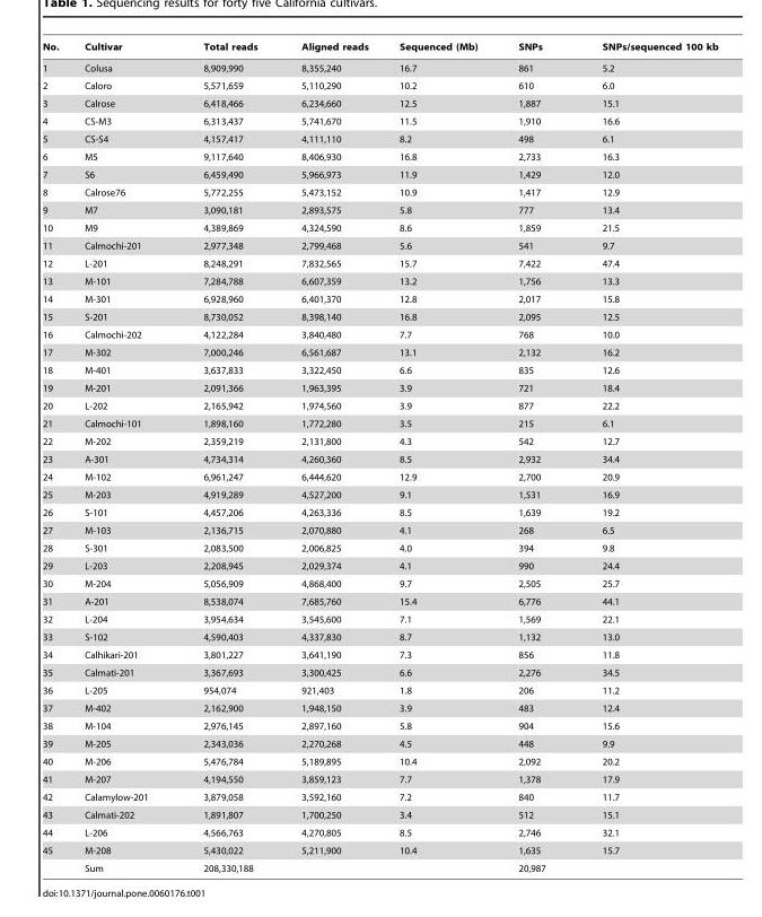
<table><thead><tr><td>No.</td><td>Cultivar</td><td>Total reads</td><td>Aligned reads</td><td>Sequenced (Mb)</td><td>SNPs</td><td>SNPs/sequenced 100 kb</td></tr></thead><tbody><tr><td>1</td><td>Colusa</td><td>8,909,990</td><td>8,355,240</td><td>16.7</td><td>861</td><td>5.2</td></tr><tr><td>2</td><td>Caloro</td><td>5,571,659</td><td>5,110,290</td><td>10.2</td><td>610</td><td>6.0</td></tr><tr><td>3</td><td>Calrose</td><td>6,418,466</td><td>6,234,660</td><td>12.5</td><td>1,887</td><td>15.1</td></tr><tr><td>4</td><td>CS-M3</td><td>6,313,437</td><td>5,741,670</td><td>11.5</td><td>1,910</td><td>16.6</td></tr><tr><td>5</td><td>CS-S4</td><td>4,157,417</td><td>4,111,110</td><td>8.2</td><td>498</td><td>6.1</td></tr><tr><td>6</td><td>M5</td><td>9,117,640</td><td>8,406,930</td><td>16.8</td><td>2,733</td><td>16.3</td></tr><tr><td>7</td><td>S6</td><td>6,459,490</td><td>5,966,973</td><td>11.9</td><td>1,429</td><td>12.0</td></tr><tr><td>8</td><td>Calrose76</td><td>5,772,255</td><td>5,473,152</td><td>10.9</td><td>1,417</td><td>12.9</td></tr><tr><td>9</td><td>M7</td><td>3,090,181</td><td>2,893,575</td><td>5.8</td><td>777</td><td>13.4</td></tr><tr><td>10</td><td>M9</td><td>4,389,869</td><td>4,324,590</td><td>8.6</td><td>1,859</td><td>21.5</td></tr><tr><td>11</td><td>Calmochi-201</td><td>2,977,348</td><td>2,799,468</td><td>5.6</td><td>541</td><td>9.7</td></tr><tr><td>12</td><td>L-201</td><td>8,248,291</td><td>7,832,565</td><td>15.7</td><td>7,422</td><td>47.4</td></tr><tr><td>13</td><td>M-101</td><td>7,284,788</td><td>6,607,359</td><td>13.2</td><td>1,756</td><td>13.3</td></tr><tr><td>14</td><td>M-301</td><td>6,928,960</td><td>6,401,370</td><td>12.8</td><td>2,017</td><td>15.8</td></tr><tr><td>15</td><td>S-201</td><td>8,730,052</td><td>8,398,140</td><td>16.8</td><td>2,095</td><td>12.5</td></tr><tr><td>16</td><td>Calmochi-202</td><td>4,122,284</td><td>3,840,480</td><td>7.7</td><td>768</td><td>10.0</td></tr><tr><td>17</td><td>M-302</td><td>7,000,246</td><td>6,561,687</td><td>13.1</td><td>2,132</td><td>16.2</td></tr><tr><td>18</td><td>M-401</td><td>3,637,833</td><td>3,322,450</td><td>6.6</td><td>835</td><td>12.6</td></tr><tr><td>19</td><td>M-201</td><td>2,091,366</td><td>1,963,395</td><td>3.9</td><td>721</td><td>18.4</td></tr><tr><td>20</td><td>L-202</td><td>2,165,942</td><td>1,974,560</td><td>3.9</td><td>877</td><td>22.2</td></tr><tr><td>21</td><td>Calmochi-101</td><td>1,898,160</td><td>1,772,280</td><td>3.5</td><td>215</td><td>6.1</td></tr><tr><td>22</td><td>M-202</td><td>2,359,219</td><td>2,131,800</td><td>4.3</td><td>542</td><td>12.7</td></tr><tr><td>23</td><td>A-301</td><td>4,734,314</td><td>4,260,360</td><td>8.5</td><td>2,932</td><td>34.4</td></tr><tr><td>24</td><td>M-102</td><td>6,961,247</td><td>6,444,620</td><td>12.9</td><td>2,700</td><td>20.9</td></tr><tr><td>25</td><td>M-203</td><td>4,919,289</td><td>4,527,200</td><td>9.1</td><td>1,531</td><td>16.9</td></tr><tr><td>26</td><td>S-101</td><td>4,457,206</td><td>4,263,336</td><td>8.5</td><td>1,639</td><td>19.2</td></tr><tr><td>27</td><td>M-103</td><td>2,136,715</td><td>2,070,880</td><td>4.1</td><td>268</td><td>6.5</td></tr><tr><td>28</td><td>S-301</td><td>2,083,500</td><td>2,006,825</td><td>4.0</td><td>394</td><td>9.8</td></tr><tr><td>29</td><td>L-203</td><td>2,208,945</td><td>2,029,374</td><td>4.1</td><td>990</td><td>24.4</td></tr><tr><td>30</td><td>M-204</td><td>5,056,909</td><td>4,868,400</td><td>9.7</td><td>2,505</td><td>25.7</td></tr><tr><td>31</td><td>A-201</td><td>8,538,074</td><td>7,685,760</td><td>15.4</td><td>6,776</td><td>44.1</td></tr><tr><td>32</td><td>L-204</td><td>3,954,634</td><td>3,545,600</td><td>7.1</td><td>1,569</td><td>22.1</td></tr><tr><td>33</td><td>S-102</td><td>4,590,403</td><td>4,337,830</td><td>8.7</td><td>1,132</td><td>13.0</td></tr><tr><td>34</td><td>Calhikari-201</td><td>3,801,227</td><td>3,641,190</td><td>7.3</td><td>856</td><td>11.8</td></tr><tr><td>35</td><td>Calmati-201</td><td>3,367,693</td><td>3,300,425</td><td>6.6</td><td>2,276</td><td>34.5</td></tr><tr><td>36</td><td>L-205</td><td>954,074</td><td>921,403</td><td>1.8</td><td>206</td><td>11.2</td></tr><tr><td>37</td><td>M-402</td><td>2,162,900</td><td>1,948,150</td><td>3.9</td><td>483</td><td>12.4</td></tr><tr><td>38</td><td>M-104</td><td>2,976,145</td><td>2,897,160</td><td>5.8</td><td>904</td><td>15.6</td></tr><tr><td>39</td><td>M-205</td><td>2,343,036</td><td>2,270,268</td><td>4.5</td><td>448</td><td>9.9</td></tr><tr><td>40</td><td>M-206</td><td>5,476,784</td><td>5,189,895</td><td>10.4</td><td>2,092</td><td>20.2</td></tr><tr><td>41</td><td>M-207</td><td>4,194,550</td><td>3,859,123</td><td>7.7</td><td>1,378</td><td>17.9</td></tr><tr><td>42</td><td>Calamylow-201</td><td>3,879,058</td><td>3,592,160</td><td>7.2</td><td>840</td><td>11.7</td></tr><tr><td>43</td><td>Calmati-202</td><td>1,891,807</td><td>1,700,250</td><td>3.4</td><td>512</td><td>15.1</td></tr><tr><td>44</td><td>L-206</td><td>4,566,763</td><td>4,270,805</td><td>8.5</td><td>2,746</td><td>32.1</td></tr><tr><td rowspan="2">45</td><td>M-208</td><td>5,430,022</td><td>5,211,900</td><td>10.4</td><td>1,635</td><td>15.7</td></tr><tr><td>Sum</td><td>208,330,188</td><td></td><td></td><td>20,987</td><td></td></tr></tbody></table>